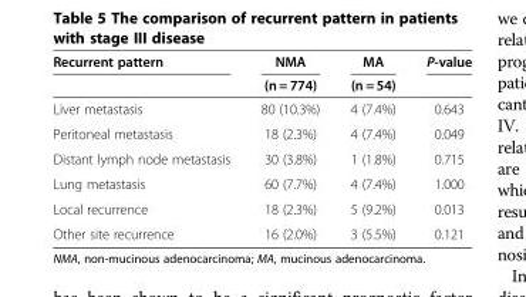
<table><thead><tr><td rowspan="2">Recurrent pattern</td><td rowspan="2">NMA (n = 774)</td><td rowspan="2">MA (n = 54)</td><td rowspan="2">P-value</td></tr><tr></tr></thead><tbody><tr><td>Liver metastasis</td><td>80 (10.3%)</td><td>4 (7.4%)</td><td>0.643</td></tr><tr><td>Peritoneal metastasis</td><td>18 (2.3%)</td><td>4 (7.4%)</td><td>0.049</td></tr><tr><td>Distant lymph node metastasis</td><td>30 (3.8%)</td><td>1 (1.8%)</td><td>0.715</td></tr><tr><td>Lung metastasis</td><td>60 (7.7%)</td><td>4 (7.4%)</td><td>1.000</td></tr><tr><td>Local recurrence</td><td>18 (2.3%)</td><td>5 (9.2%)</td><td>0.013</td></tr><tr><td>Other site recurrence</td><td>16 (2.0%)</td><td>3 (5.5%)</td><td>0.121</td></tr></tbody></table>